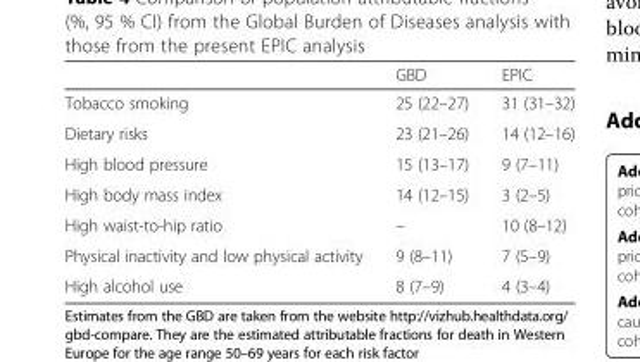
<table><thead><tr><td></td><td>GBD</td><td>EPIC</td></tr></thead><tbody><tr><td>Tobacco smoking</td><td>25 (22–27)</td><td>31 (31–32)</td></tr><tr><td>Dietary risks</td><td>23 (21–26)</td><td>14 (12–16)</td></tr><tr><td>High blood pressure</td><td>15 (13–17)</td><td>9 (7–11)</td></tr><tr><td>High body mass index</td><td>14 (12–15)</td><td>3 (2–5)</td></tr><tr><td>High waist-to-hip ratio</td><td>–</td><td>10 (8–12)</td></tr><tr><td>Physical inactivity and low physical activity</td><td>9 (8–11)</td><td>7 (5–9)</td></tr><tr><td>High alcohol use</td><td>8 (7–9)</td><td>4 (3–4)</td></tr></tbody></table>